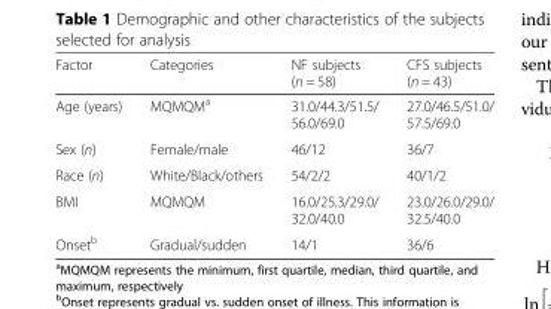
<table><thead><tr><td>Factor</td><td>Categories</td><td>NF subjects (n = 58)</td><td>CFS subjects (n = 43)</td></tr></thead><tbody><tr><td>Age (years)</td><td>MQMQM<sup>a</sup></td><td>31.0/44.3/51.5/ 56.0/69.0</td><td>27.0/46.5/51.0/ 57.5/69.0</td></tr><tr><td>Sex (n)</td><td>Female/male</td><td>46/12</td><td>36/7</td></tr><tr><td>Race (n)</td><td>White/Black/others</td><td>54/2/2</td><td>40/1/2</td></tr><tr><td>BMI</td><td>MQMQM</td><td>16.0/25.3/29.0/ 32.0/40.0</td><td>23.0/26.0/29.0/ 32.5/40.0</td></tr><tr><td>Onset<sup>b</sup></td><td>Gradual/sudden</td><td>14/1</td><td>36/6</td></tr></tbody></table>